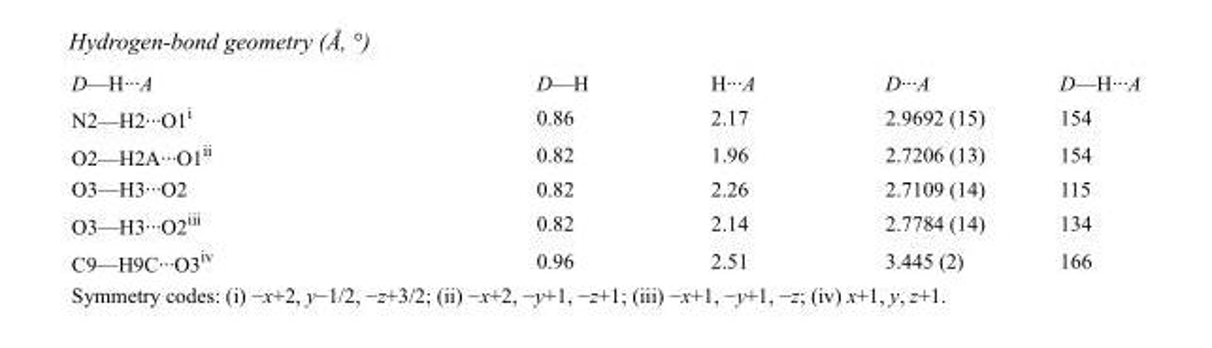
<table><tbody><tr><td>D—H···A</td><td>D—H</td><td>H···A</td><td>D···A</td><td>D—H···A</td></tr><tr><td>N2—H2···O1<sup>i</sup></td><td>0.86</td><td>2.17</td><td>2.9692 (15)</td><td>154</td></tr><tr><td>O2—H2A···O1<sup>ii</sup></td><td>0.82</td><td>1.96</td><td>2.7206 (13)</td><td>154</td></tr><tr><td>O3—H3···O2</td><td>0.82</td><td>2.26</td><td>2.7109 (14)</td><td>115</td></tr><tr><td>O3—H3···O2<sup>iii</sup></td><td>0.82</td><td>2.14</td><td>2.7784 (14)</td><td>134</td></tr><tr><td>C9—H9C···O3<sup>iv</sup></td><td>0.96</td><td>2.51</td><td>3.445 (2)</td><td>166</td></tr></tbody></table>